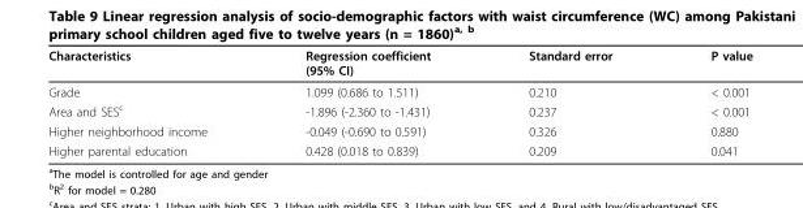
<table><thead><tr><td>Characteristics</td><td>Regression coefficient (95% CI)</td><td>Standard error</td><td>P value</td></tr></thead><tbody><tr><td>Grade</td><td>1.099 (0.686 to 1.511)</td><td>0.210</td><td>&lt; 0.001</td></tr><tr><td>Area and SES<sup>c</sup></td><td>-1.896 (-2.360 to -1.431)</td><td>0.237</td><td>&lt; 0.001</td></tr><tr><td>Higher neighborhood income</td><td>-0.049 (-0.690 to 0.591)</td><td>0.326</td><td>0.880</td></tr><tr><td>Higher parental education</td><td>0.428 (0.018 to 0.839)</td><td>0.209</td><td>0.041</td></tr></tbody></table>